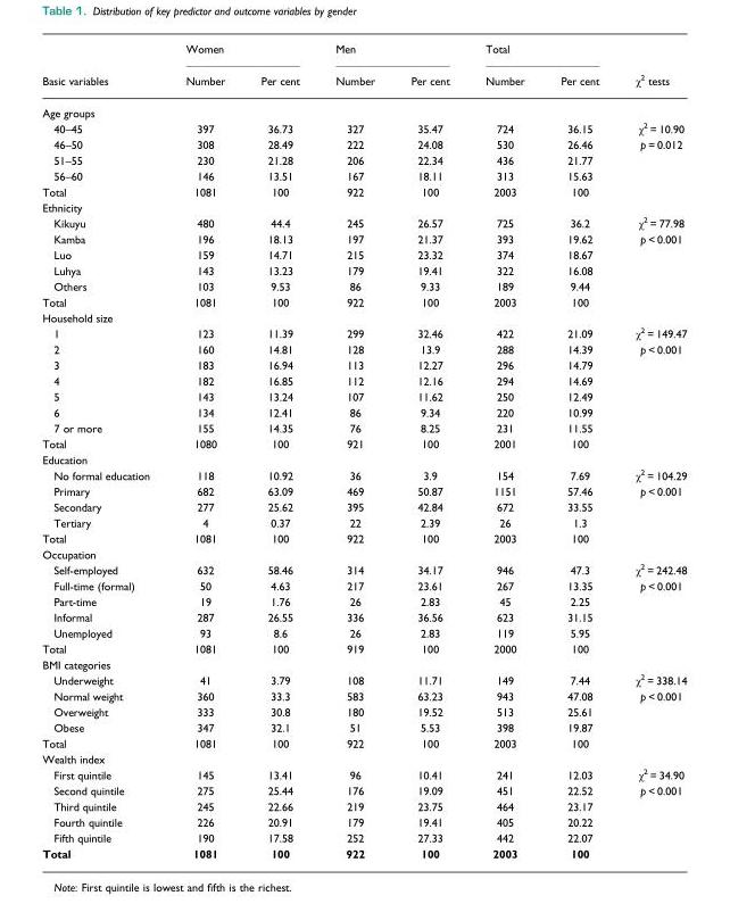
<table><thead><tr><td rowspan="2">Basic variables</td><td colspan="2">Women</td><td colspan="2">Men</td><td colspan="2">Total</td><td rowspan="2">χ<sup>2</sup> tests</td></tr><tr><td>Number</td><td>Per cent</td><td>Number</td><td>Per cent</td><td>Number</td><td>Per cent</td></tr></thead><tbody><tr><td colspan="8">Age groups</td></tr><tr><td>40–45</td><td>397</td><td>36.73</td><td>327</td><td>35.47</td><td>724</td><td>36.15</td><td rowspan="5">χ<sup>2</sup> = 10.90 p = 0.012</td></tr><tr><td>46–50</td><td>308</td><td>28.49</td><td>222</td><td>24.08</td><td>530</td><td>26.46</td></tr><tr><td>51–55</td><td>230</td><td>21.28</td><td>206</td><td>22.34</td><td>436</td><td>21.77</td></tr><tr><td>56–60</td><td>146</td><td>13.51</td><td>167</td><td>18.11</td><td>313</td><td>15.63</td></tr><tr><td>Total</td><td>1081</td><td>100</td><td>922</td><td>100</td><td>2003</td><td>100</td></tr><tr><td colspan="8">Ethnicity</td></tr><tr><td>Kikuyu</td><td>480</td><td>44.4</td><td>245</td><td>26.57</td><td>725</td><td>36.2</td><td rowspan="6">χ<sup>2</sup> = 77.98 p &lt; 0.001</td></tr><tr><td>Kamba</td><td>196</td><td>18.13</td><td>197</td><td>21.37</td><td>393</td><td>19.62</td></tr><tr><td>Luo</td><td>159</td><td>14.71</td><td>215</td><td>23.32</td><td>374</td><td>18.67</td></tr><tr><td>Luhya</td><td>143</td><td>13.23</td><td>179</td><td>19.41</td><td>322</td><td>16.08</td></tr><tr><td>Others</td><td>103</td><td>9.53</td><td>86</td><td>9.33</td><td>189</td><td>9.44</td></tr><tr><td>Total</td><td>1081</td><td>100</td><td>922</td><td>100</td><td>2003</td><td>100</td></tr><tr><td colspan="8">Household size</td></tr><tr><td>1</td><td>123</td><td>11.39</td><td>299</td><td>32.46</td><td>422</td><td>21.09</td><td rowspan="8">χ<sup>2</sup> = 149.47 p &lt; 0.001</td></tr><tr><td>2</td><td>160</td><td>14.81</td><td>128</td><td>13.9</td><td>288</td><td>14.39</td></tr><tr><td>3</td><td>183</td><td>16.94</td><td>113</td><td>12.27</td><td>296</td><td>14.79</td></tr><tr><td>4</td><td>182</td><td>16.85</td><td>112</td><td>12.16</td><td>294</td><td>14.69</td></tr><tr><td>5</td><td>143</td><td>13.24</td><td>107</td><td>11.62</td><td>250</td><td>12.49</td></tr><tr><td>6</td><td>134</td><td>12.41</td><td>86</td><td>9.34</td><td>220</td><td>10.99</td></tr><tr><td>7 or more</td><td>155</td><td>14.35</td><td>76</td><td>8.25</td><td>231</td><td>11.55</td></tr><tr><td>Total</td><td>1080</td><td>100</td><td>921</td><td>100</td><td>2001</td><td>100</td></tr><tr><td colspan="8">Education</td></tr><tr><td>No formal education</td><td>118</td><td>10.92</td><td>36</td><td>3.9</td><td>154</td><td>7.69</td><td rowspan="5">χ<sup>2</sup> = 104.29 p &lt; 0.001</td></tr><tr><td>Primary</td><td>682</td><td>63.09</td><td>469</td><td>50.87</td><td>1151</td><td>57.46</td></tr><tr><td>Secondary</td><td>277</td><td>25.62</td><td>395</td><td>42.84</td><td>672</td><td>33.55</td></tr><tr><td>Tertiary</td><td>4</td><td>0.37</td><td>22</td><td>2.39</td><td>26</td><td>1.3</td></tr><tr><td>Total</td><td>1081</td><td>100</td><td>922</td><td>100</td><td>2003</td><td>100</td></tr><tr><td colspan="8">Occupation</td></tr><tr><td>Self-employed</td><td>632</td><td>58.46</td><td>314</td><td>34.17</td><td>946</td><td>47.3</td><td rowspan="6">χ<sup>2</sup> = 242.48 p &lt; 0.001</td></tr><tr><td>Full-time (formal)</td><td>50</td><td>4.63</td><td>217</td><td>23.61</td><td>267</td><td>13.35</td></tr><tr><td>Part-time</td><td>19</td><td>1.76</td><td>26</td><td>2.83</td><td>45</td><td>2.25</td></tr><tr><td>Informal</td><td>287</td><td>26.55</td><td>336</td><td>36.56</td><td>623</td><td>31.15</td></tr><tr><td>Unemployed</td><td>93</td><td>8.6</td><td>26</td><td>2.83</td><td>119</td><td>5.95</td></tr><tr><td>Total</td><td>1081</td><td>100</td><td>919</td><td>100</td><td>2000</td><td>100</td></tr><tr><td colspan="8">BMI categories</td></tr><tr><td>Underweight</td><td>41</td><td>3.79</td><td>108</td><td>11.71</td><td>149</td><td>7.44</td><td rowspan="5">χ<sup>2</sup> = 338.14 p &lt; 0.001</td></tr><tr><td>Normal weight</td><td>360</td><td>33.3</td><td>583</td><td>63.23</td><td>943</td><td>47.08</td></tr><tr><td>Overweight</td><td>333</td><td>30.8</td><td>180</td><td>19.52</td><td>513</td><td>25.61</td></tr><tr><td>Obese</td><td>347</td><td>32.1</td><td>51</td><td>5.53</td><td>398</td><td>19.87</td></tr><tr><td>Total</td><td>1081</td><td>100</td><td>922</td><td>100</td><td>2003</td><td>100</td></tr><tr><td colspan="8">Wealth index</td></tr><tr><td>First quintile</td><td>145</td><td>13.41</td><td>96</td><td>10.41</td><td>241</td><td>12.03</td><td rowspan="6">χ<sup>2</sup> = 34.90 p &lt; 0.001</td></tr><tr><td>Second quintile</td><td>275</td><td>25.44</td><td>176</td><td>19.09</td><td>451</td><td>22.52</td></tr><tr><td>Third quintile</td><td>245</td><td>22.66</td><td>219</td><td>23.75</td><td>464</td><td>23.17</td></tr><tr><td>Fourth quintile</td><td>226</td><td>20.91</td><td>179</td><td>19.41</td><td>405</td><td>20.22</td></tr><tr><td>Fifth quintile</td><td>190</td><td>17.58</td><td>252</td><td>27.33</td><td>442</td><td>22.07</td></tr><tr><td>Total</td><td>1081</td><td>100</td><td>922</td><td>100</td><td>2003</td><td>100</td></tr></tbody></table>